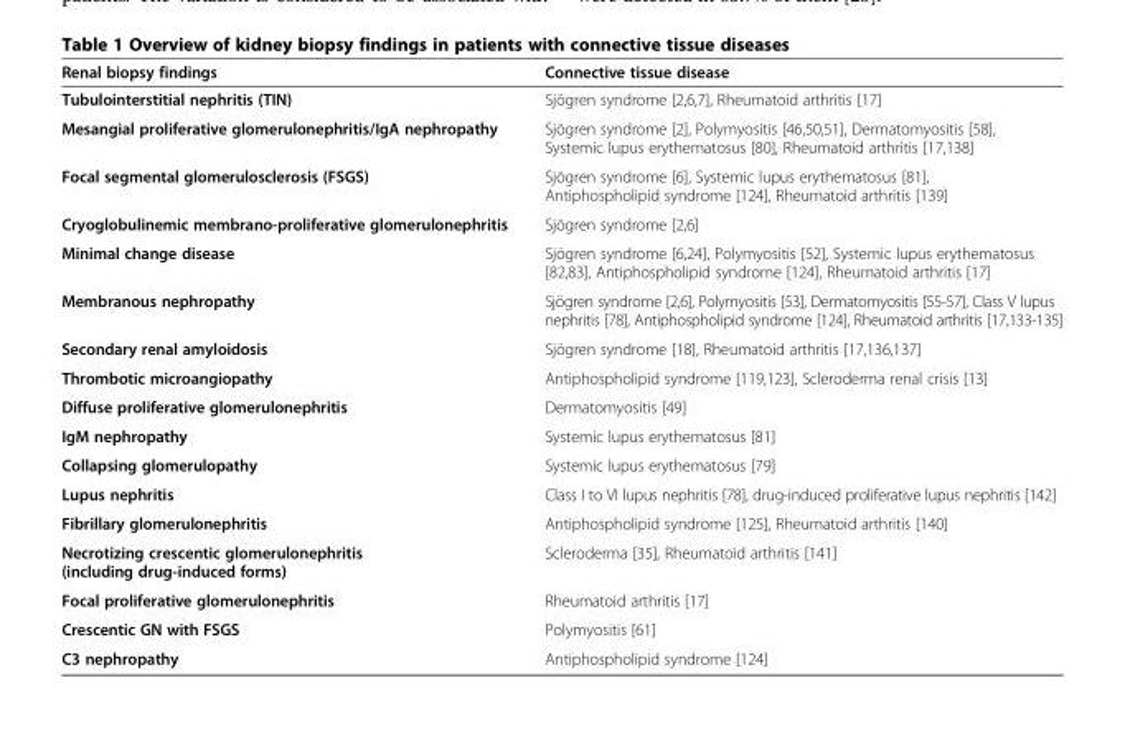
<table><thead><tr><td>Renal biopsy findings</td><td>Connective tissue disease</td></tr></thead><tbody><tr><td>Tubulointerstitial nephritis (TIN)</td><td>Sjögren syndrome [2,6,7], Rheumatoid arthritis [17]</td></tr><tr><td>Mesangial proliferative glomerulonephritis/IgA nephropathy</td><td>Sjögren syndrome [2], Polymyositis [46,50,51], Dermatomyositis [58], Systemic lupus erythematosus [80], Rheumatoid arthritis [17,138]</td></tr><tr><td>Focal segmental glomerulosclerosis (FSGS)</td><td>Sjögren syndrome [6], Systemic lupus erythematosus [81], Antiphospholipid syndrome [124], Rheumatoid arthritis [139]</td></tr><tr><td>Cryoglobulinemic membrano-proliferative glomerulonephritis</td><td>Sjögren syndrome [2,6]</td></tr><tr><td>Minimal change disease</td><td>Sjögren syndrome [6,24], Polymyositis [52], Systemic lupus erythematosus [82,83], Antiphospholipid syndrome [124], Rheumatoid arthritis [17]</td></tr><tr><td>Membranous nephropathy</td><td>Sjögren syndrome [2,6], Polymyositis [53], Dermatomyositis [55-57], Class V lupus nephritis [78], Antiphospholipid syndrome [124], Rheumatoid arthritis [17,133-135]</td></tr><tr><td>Secondary renal amyloidosis</td><td>Sjögren syndrome [18], Rheumatoid arthritis [17,136,137]</td></tr><tr><td>Thrombotic microangiopathy</td><td>Antiphospholipid syndrome [119,123], Scleroderma renal crisis [13]</td></tr><tr><td>Diffuse proliferative glomerulonephritis</td><td>Dermatomyositis [49]</td></tr><tr><td>IgM nephropathy</td><td>Systemic lupus erythematosus [81]</td></tr><tr><td>Collapsing glomerulopathy</td><td>Systemic lupus erythematosus [79]</td></tr><tr><td>Lupus nephritis</td><td>Class I to VI lupus nephritis [78], drug-induced proliferative lupus nephritis [142]</td></tr><tr><td>Fibrillary glomerulonephritis</td><td>Antiphospholipid syndrome [125], Rheumatoid arthritis [140]</td></tr><tr><td>Necrotizing crescentic glomerulonephritis (including drug-induced forms)</td><td>Scleroderma [35], Rheumatoid arthritis [141]</td></tr><tr><td>Focal proliferative glomerulonephritis</td><td>Rheumatoid arthritis [17]</td></tr><tr><td>Crescentic GN with FSGS</td><td>Polymyositis [61]</td></tr><tr><td>C3 nephropathy</td><td>Antiphospholipid syndrome [124]</td></tr></tbody></table>